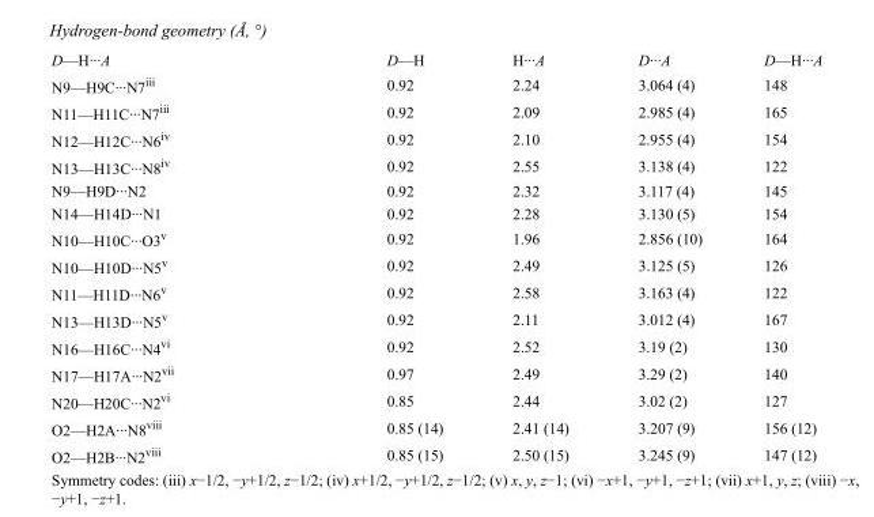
<table><tbody><tr><td>D—H···A</td><td>D—H</td><td>H···A</td><td>D···A</td><td>D—H···A</td></tr><tr><td>N9—H9C···N7<sup>iii</sup></td><td>0.92</td><td>2.24</td><td>3.064 (4)</td><td>148</td></tr><tr><td>N11—H11C···N7<sup>iii</sup></td><td>0.92</td><td>2.09</td><td>2.985 (4)</td><td>165</td></tr><tr><td>N12—H12C···N6<sup>iv</sup></td><td>0.92</td><td>2.10</td><td>2.955 (4)</td><td>154</td></tr><tr><td>N13—H13C···N8<sup>iv</sup></td><td>0.92</td><td>2.55</td><td>3.138 (4)</td><td>122</td></tr><tr><td>N9—H9D···N2</td><td>0.92</td><td>2.32</td><td>3.117 (4)</td><td>145</td></tr><tr><td>N14—H14D···N1</td><td>0.92</td><td>2.28</td><td>3.130 (5)</td><td>154</td></tr><tr><td>N10—H10C···O3<sup>v</sup></td><td>0.92</td><td>1.96</td><td>2.856 (10)</td><td>164</td></tr><tr><td>N10—H10D···N5<sup>v</sup></td><td>0.92</td><td>2.49</td><td>3.125 (5)</td><td>126</td></tr><tr><td>N11—H11D···N6<sup>v</sup></td><td>0.92</td><td>2.58</td><td>3.163 (4)</td><td>122</td></tr><tr><td>N13—H13D···N5<sup>v</sup></td><td>0.92</td><td>2.11</td><td>3.012 (4)</td><td>167</td></tr><tr><td>N16—H16C···N4<sup>vi</sup></td><td>0.92</td><td>2.52</td><td>3.19 (2)</td><td>130</td></tr><tr><td>N17—H17A···N2<sup>vii</sup></td><td>0.97</td><td>2.49</td><td>3.29 (2)</td><td>140</td></tr><tr><td>N20—H20C···N2<sup>vi</sup></td><td>0.85</td><td>2.44</td><td>3.02 (2)</td><td>127</td></tr><tr><td>O2—H2A···N8<sup>viii</sup></td><td>0.85 (14)</td><td>2.41 (14)</td><td>3.207 (9)</td><td>156 (12)</td></tr><tr><td>O2—H2B···N2<sup>viii</sup></td><td>0.85 (15)</td><td>2.50 (15)</td><td>3.245 (9)</td><td>147 (12)</td></tr></tbody></table>